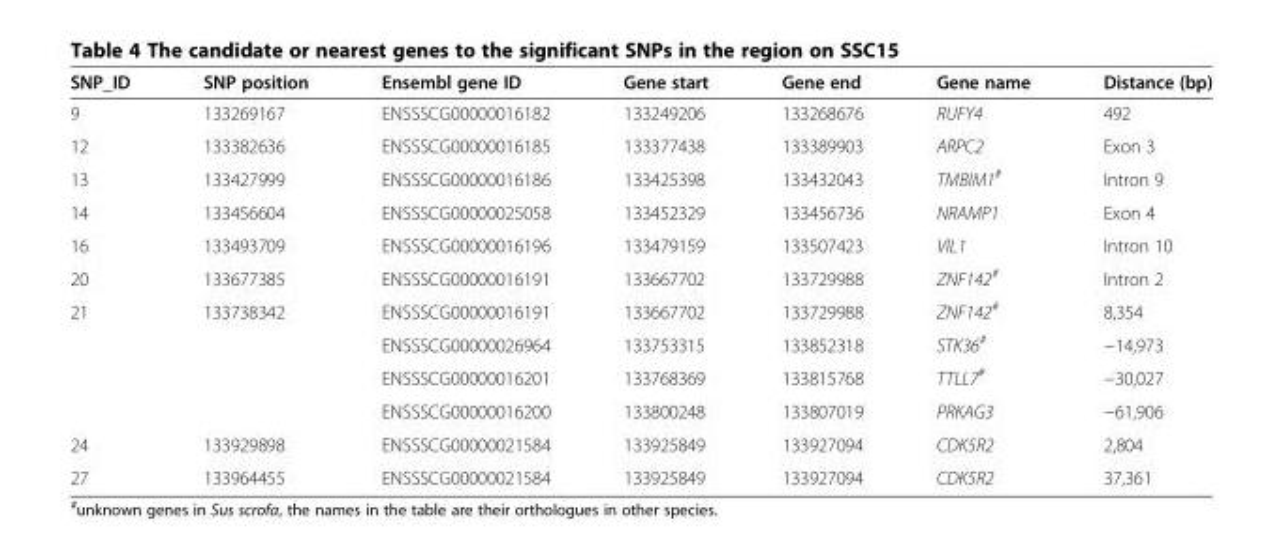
<table><thead><tr><td>SNP_ID</td><td>SNP position</td><td>Ensembl gene ID</td><td>Gene start</td><td>Gene end</td><td>Gene name</td><td>Distance (bp)</td></tr></thead><tbody><tr><td>9</td><td>133269167</td><td>ENSSSCG00000016182</td><td>133249206</td><td>133268676</td><td>RUFY4</td><td>492</td></tr><tr><td>12</td><td>133382636</td><td>ENSSSCG00000016185</td><td>133377438</td><td>133389903</td><td>ARPC2</td><td>Exon 3</td></tr><tr><td>13</td><td>133427999</td><td>ENSSSCG00000016186</td><td>133425398</td><td>133432043</td><td>TMBIM1<sup>#</sup></td><td>Intron 9</td></tr><tr><td>14</td><td>133456604</td><td>ENSSSCG00000025058</td><td>133452329</td><td>133456736</td><td>NRAMP1</td><td>Exon 4</td></tr><tr><td>16</td><td>133493709</td><td>ENSSSCG00000016196</td><td>133479159</td><td>133507423</td><td>VIL1</td><td>Intron 10</td></tr><tr><td>20</td><td>133677385</td><td>ENSSSCG00000016191</td><td>133667702</td><td>133729988</td><td>ZNF142<sup>#</sup></td><td>Intron 2</td></tr><tr><td rowspan="4">21</td><td rowspan="4">133738342</td><td>ENSSSCG00000016191</td><td>133667702</td><td>133729988</td><td>ZNF142<sup>#</sup></td><td>8,354</td></tr><tr><td>ENSSSCG00000026964</td><td>133753315</td><td>133852318</td><td>STK36<sup>#</sup></td><td>−14,973</td></tr><tr><td>ENSSSCG00000016201</td><td>133768369</td><td>133815768</td><td>TTLL7<sup>#</sup></td><td>−30,027</td></tr><tr><td>ENSSSCG00000016200</td><td>133800248</td><td>133807019</td><td>PRKAG3</td><td>−61,906</td></tr><tr><td>24</td><td>133929898</td><td>ENSSSCG00000021584</td><td>133925849</td><td>133927094</td><td>CDK5R2</td><td>2,804</td></tr><tr><td>27</td><td>133964455</td><td>ENSSSCG00000021584</td><td>133925849</td><td>133927094</td><td>CDK5R2</td><td>37,361</td></tr></tbody></table>